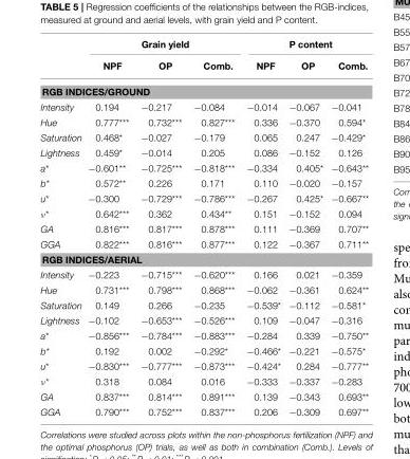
<table><thead><tr><td rowspan="2"></td><td colspan="3">Grain yield</td><td colspan="3">P content</td></tr><tr><td>NPF</td><td>OP</td><td>Comb.</td><td>NPF</td><td>OP</td><td>Comb.</td></tr></thead><tbody><tr><td colspan="7">RGB INDICES/GROUND</td></tr><tr><td>Intensity</td><td>0.194</td><td>−0.217</td><td>−0.084</td><td>−0.014</td><td>−0.067</td><td>−0.041</td></tr><tr><td>Hue</td><td>0.777***</td><td>0.732***</td><td>0.827***</td><td>0.336</td><td>−0.370</td><td>0.594*</td></tr><tr><td>Saturation</td><td>0.468*</td><td>−0.027</td><td>−0.179</td><td>0.065</td><td>0.247</td><td>−0.429*</td></tr><tr><td>Lightness</td><td>0.459*</td><td>−0.014</td><td>0.205</td><td>0.086</td><td>−0.152</td><td>0.126</td></tr><tr><td>a*</td><td>−0.601**</td><td>−0.725***</td><td>−0.818***</td><td>−0.334</td><td>0.405*</td><td>−0.643**</td></tr><tr><td>b*</td><td>0.572**</td><td>0.226</td><td>0.171</td><td>0.110</td><td>−0.020</td><td>−0.157</td></tr><tr><td>u*</td><td>−0.300</td><td>−0.729***</td><td>−0.786***</td><td>−0.267</td><td>0.425*</td><td>−0.667**</td></tr><tr><td>ν*</td><td>0.642***</td><td>0.362</td><td>0.434**</td><td>0.151</td><td>−0.152</td><td>0.094</td></tr><tr><td>GA</td><td>0.816***</td><td>0.817***</td><td>0.878***</td><td>0.111</td><td>−0.369</td><td>0.707**</td></tr><tr><td>GGA</td><td>0.822***</td><td>0.816***</td><td>0.877***</td><td>0.122</td><td>−0.367</td><td>0.711**</td></tr><tr><td colspan="7">RGB INDICES/AERIAL</td></tr><tr><td>Intensity</td><td>−0.223</td><td>−0.715***</td><td>−0.620***</td><td>0.166</td><td>0.021</td><td>−0.359</td></tr><tr><td>Hue</td><td>0.731***</td><td>0.798***</td><td>0.868***</td><td>−0.062</td><td>−0.361</td><td>0.624**</td></tr><tr><td>Saturation</td><td>0.149</td><td>0.266</td><td>−0.235</td><td>−0.539*</td><td>−0.112</td><td>−0.581*</td></tr><tr><td>Lightness</td><td>−0.102</td><td>−0.653***</td><td>−0.526***</td><td>0.109</td><td>−0.047</td><td>−0.316</td></tr><tr><td>a*</td><td>−0.856***</td><td>−0.784***</td><td>−0.883***</td><td>−0.284</td><td>0.339</td><td>−0.750**</td></tr><tr><td>b*</td><td>0.192</td><td>0.002</td><td>−0.292*</td><td>−0.466*</td><td>−0.221</td><td>−0.575*</td></tr><tr><td>u*</td><td>−0.830***</td><td>−0.777***</td><td>−0.873***</td><td>−0.424*</td><td>0.284</td><td>−0.777**</td></tr><tr><td>ν*</td><td>0.318</td><td>0.084</td><td>0.016</td><td>−0.333</td><td>−0.337</td><td>−0.283</td></tr><tr><td>GA</td><td>0.837***</td><td>0.814***</td><td>0.891***</td><td>0.139</td><td>−0.343</td><td>0.693**</td></tr><tr><td>GGA</td><td>0.790***</td><td>0.752***</td><td>0.837***</td><td>0.206</td><td>−0.309</td><td>0.697**</td></tr></tbody></table>